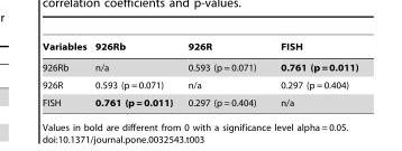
<table><thead><tr><td>Variables</td><td>926Rb</td><td>926R</td><td>FISH</td></tr></thead><tbody><tr><td>926Rb</td><td>n/a</td><td>0.593 (p = 0.071)</td><td>0.761 (p = 0.011)</td></tr><tr><td>926R</td><td>0.593 (p = 0.071)</td><td>n/a</td><td>0.297 (p = 0.404)</td></tr><tr><td>FISH</td><td>0.761 (p = 0.011)</td><td>0.297 (p = 0.404)</td><td>n/a</td></tr></tbody></table>